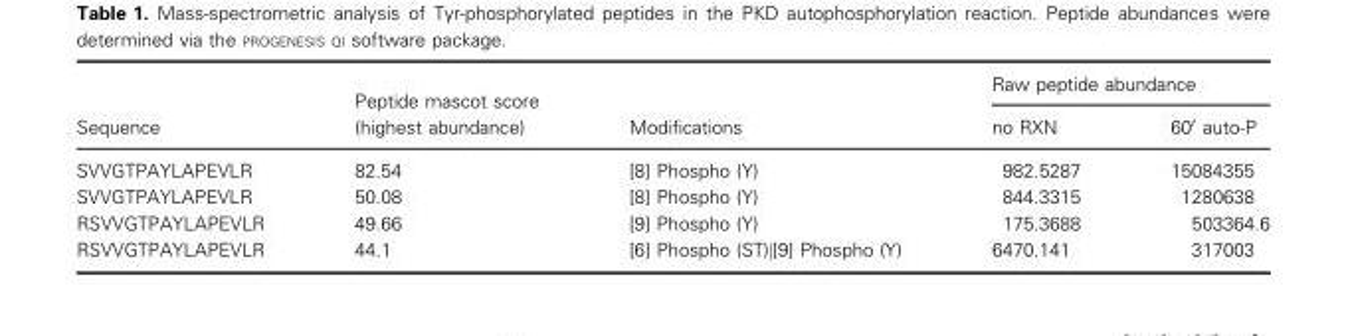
<table><thead><tr><td rowspan="2">Sequence</td><td rowspan="2">Peptide mascot score (highest abundance)</td><td rowspan="2">Modifications</td><td colspan="2">Raw peptide abundance</td></tr><tr><td>no RXN</td><td>60′ auto-P</td></tr></thead><tbody><tr><td>SVVGTPAYLAPEVLR</td><td>82.54</td><td>[8] Phospho (Y)</td><td>982.5287</td><td>15084355</td></tr><tr><td>SVVGTPAYLAPEVLR</td><td>50.08</td><td>[8] Phospho (Y)</td><td>844.3315</td><td>1280638</td></tr><tr><td>RSVVGTPAYLAPEVLR</td><td>49.66</td><td>[9] Phospho (Y)</td><td>175.3688</td><td>503364.6</td></tr><tr><td>RSVVGTPAYLAPEVLR</td><td>44.1</td><td>[6] Phospho (ST)|[9] Phospho (Y)</td><td>6470.141</td><td>317003</td></tr></tbody></table>